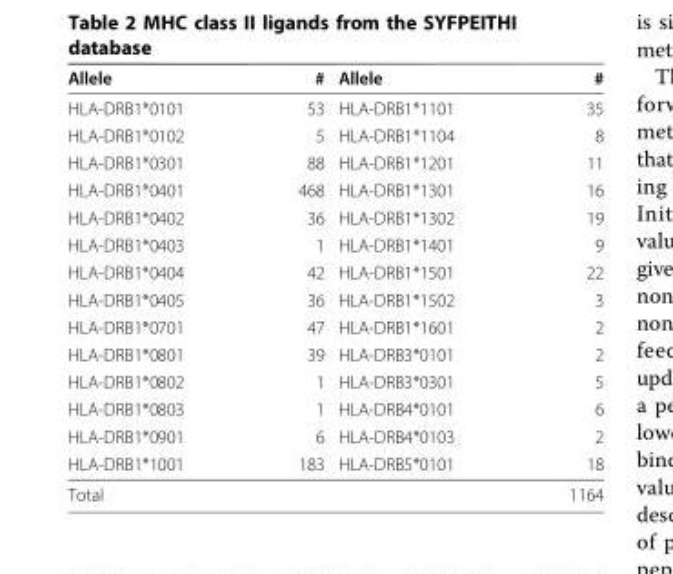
<table><thead><tr><td>Allele</td><td>#</td><td>Allele</td><td>#</td></tr></thead><tbody><tr><td>HLA-DRB1*0101</td><td>53</td><td>HLA-DRB1*1101</td><td>35</td></tr><tr><td>HLA-DRB1*0102</td><td>5</td><td>HLA-DRB1*1104</td><td>8</td></tr><tr><td>HLA-DRB1*0301</td><td>88</td><td>HLA-DRB1*1201</td><td>11</td></tr><tr><td>HLA-DRB1*0401</td><td>468</td><td>HLA-DRB1*1301</td><td>16</td></tr><tr><td>HLA-DRB1*0402</td><td>36</td><td>HLA-DRB1*1302</td><td>19</td></tr><tr><td>HLA-DRB1*0403</td><td>1</td><td>HLA-DRB1*1401</td><td>9</td></tr><tr><td>HLA-DRB1*0404</td><td>42</td><td>HLA-DRB1*1501</td><td>22</td></tr><tr><td>HLA-DRB1*0405</td><td>36</td><td>HLA-DRB1*1502</td><td>3</td></tr><tr><td>HLA-DRB1*0701</td><td>47</td><td>HLA-DRB1*1601</td><td>2</td></tr><tr><td>HLA-DRB1*0801</td><td>39</td><td>HLA-DRB3*0101</td><td>2</td></tr><tr><td>HLA-DRB1*0802</td><td>1</td><td>HLA-DRB3*0301</td><td>5</td></tr><tr><td>HLA-DRB1*0803</td><td>1</td><td>HLA-DRB4*0101</td><td>6</td></tr><tr><td>HLA-DRB1*0901</td><td>6</td><td>HLA-DRB4*0103</td><td>2</td></tr><tr><td>HLA-DRB1*1001</td><td>183</td><td>HLA-DRB5*0101</td><td>18</td></tr><tr><td>Total</td><td></td><td></td><td>1164</td></tr></tbody></table>